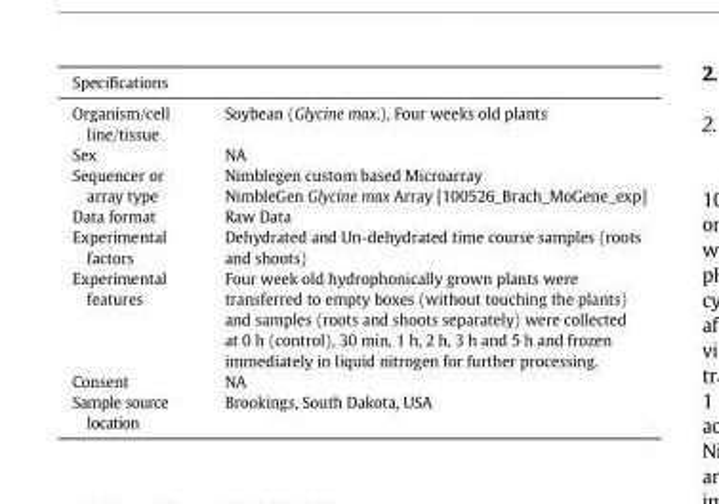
<table><thead><tr><td colspan="2">Specifications</td></tr><tr><td>Organism/cell line/tissue</td><td>Soybean (Glycine max.), Four weeks old plants</td></tr></thead><tbody><tr><td>Sex</td><td>NA</td></tr><tr><td>Sequencer or array type</td><td>Nimblegen custom based Microarray NimbleGen Glycine max Array [100526_Brach_MoGene_exp]</td></tr><tr><td>Data format</td><td>Raw Data</td></tr><tr><td>Experimental factors</td><td>Dehydrated and Un-dehydrated time course samples (roots and shoots)</td></tr><tr><td>Experimental features</td><td>Four week old hydrophonically grown plants were transferred to empty boxes (without touching the plants) and samples (roots and shoots separately) were collected at 0 h (control), 30 min, 1 h, 2 h, 3 h and 5 h and frozen immediately in liquid nitrogen for further processing.</td></tr><tr><td>Consent</td><td>NA</td></tr><tr><td>Sample source location</td><td>Brookings, South Dakota, USA</td></tr></tbody></table>